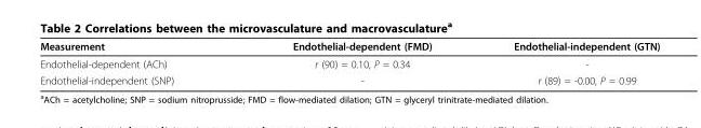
<table><thead><tr><td>Measurement</td><td>Endothelial-dependent (FMD)</td><td>Endothelial-independent (GTN)</td></tr></thead><tbody><tr><td>Endothelial-dependent (ACh)</td><td>r (90) = 0.10, P = 0.34</td><td>-</td></tr><tr><td>Endothelial-independent (SNP)</td><td>-</td><td>r (89) = -0.00, P = 0.99</td></tr></tbody></table>